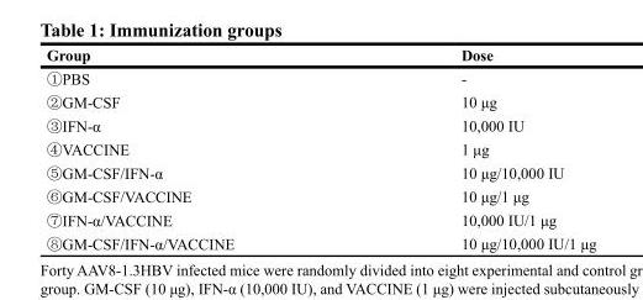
<table><thead><tr><td>Group</td><td>Dose</td></tr></thead><tbody><tr><td>①PBS</td><td>-</td></tr><tr><td>②GM-CSF</td><td>10 μg</td></tr><tr><td>③IFN-α</td><td>10,000 IU</td></tr><tr><td>④VACCINE</td><td>1 μg</td></tr><tr><td>⑤GM-CSF/IFN-α</td><td>10 μg/10,000 IU</td></tr><tr><td>⑥GM-CSF/VACCINE</td><td>10 μg/1 μg</td></tr><tr><td>⑦IFN-α/VACCINE</td><td>10,000 IU/1 μg</td></tr><tr><td>⑧GM-CSF/IFN-α/VACCINE</td><td>10 μg/10,000 IU/1 μg</td></tr></tbody></table>